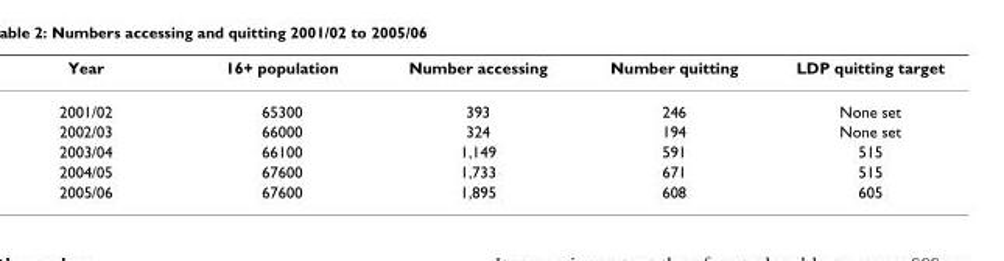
<table><thead><tr><td>Year</td><td>16+ population</td><td>Number accessing</td><td>Number quitting</td><td>LDP quitting target</td></tr></thead><tbody><tr><td>2001/02</td><td>65300</td><td>393</td><td>246</td><td>None set</td></tr><tr><td>2002/03</td><td>66000</td><td>324</td><td>194</td><td>None set</td></tr><tr><td>2003/04</td><td>66100</td><td>1,149</td><td>591</td><td>515</td></tr><tr><td>2004/05</td><td>67600</td><td>1,733</td><td>671</td><td>515</td></tr><tr><td>2005/06</td><td>67600</td><td>1,895</td><td>608</td><td>605</td></tr></tbody></table>